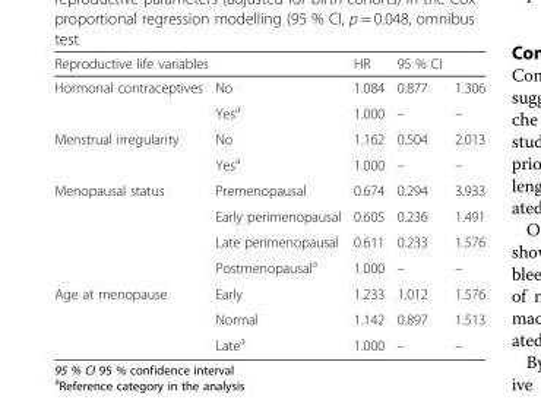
<table><thead><tr><td colspan="2">Reproductive life variables</td><td rowspan="2">HR 1.084</td><td rowspan="2">95 % CI 0.877</td><td rowspan="2">1.306</td></tr><tr><td>Hormonal contraceptives</td><td>No</td></tr></thead><tbody><tr><td></td><td>Yes<sup>a</sup></td><td>1.000</td><td>–</td><td>–</td></tr><tr><td rowspan="2">Menstrual irregularity</td><td>No</td><td>1.162</td><td>0.504</td><td>2.013</td></tr><tr><td>Yes<sup>a</sup></td><td>1.000</td><td>–</td><td>–</td></tr><tr><td rowspan="4">Menopausal status</td><td>Premenopausal</td><td>0.674</td><td>0.294</td><td>3.933</td></tr><tr><td>Early perimenopausal</td><td>0.605</td><td>0.236</td><td>1.491</td></tr><tr><td>Late perimenopausal</td><td>0.611</td><td>0.233</td><td>1.576</td></tr><tr><td>Postmenopausal<sup>a</sup></td><td>1.000</td><td>–</td><td>–</td></tr><tr><td rowspan="3">Age at menopause</td><td>Early</td><td>1.233</td><td>1.012</td><td>1.576</td></tr><tr><td>Normal</td><td>1.142</td><td>0.897</td><td>1.513</td></tr><tr><td>Late<sup>a</sup></td><td>1.000</td><td>–</td><td>–</td></tr></tbody></table>